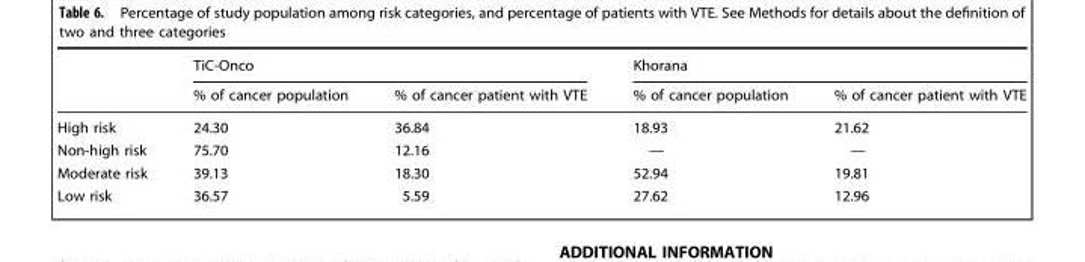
<table><thead><tr><td rowspan="2"></td><td colspan="2">TiC-Onco</td><td colspan="2">Khorana</td></tr><tr><td>% of cancer population</td><td>% of cancer patient with VTE</td><td>% of cancer population</td><td>% of cancer patient with VTE</td></tr></thead><tbody><tr><td>High risk</td><td>24.30</td><td>36.84</td><td>18.93</td><td>21.62</td></tr><tr><td>Non-high risk</td><td>75.70</td><td>12.16</td><td>—</td><td>—</td></tr><tr><td>Moderate risk</td><td>39.13</td><td>18.30</td><td>52.94</td><td>19.81</td></tr><tr><td>Low risk</td><td>36.57</td><td>5.59</td><td>27.62</td><td>12.96</td></tr></tbody></table>